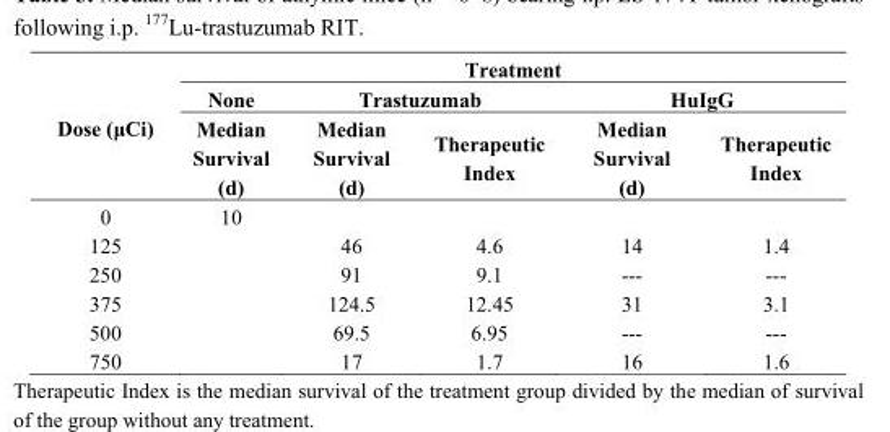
<table><thead><tr><td rowspan="3">Dose (μCi)</td><td colspan="5">Treatment</td></tr><tr><td rowspan="2">None Median Survival (d)</td><td colspan="2">Trastuzumab</td><td colspan="2">HuIgG</td></tr><tr><td>Median Survival (d)</td><td>Therapeutic Index</td><td>Median Survival (d)</td><td>Therapeutic Index</td></tr></thead><tbody><tr><td>0</td><td>10</td><td></td><td></td><td></td><td></td></tr><tr><td>125</td><td></td><td>46</td><td>4.6</td><td>14</td><td>1.4</td></tr><tr><td>250</td><td></td><td>91</td><td>9.1</td><td>---</td><td>---</td></tr><tr><td>375</td><td></td><td>124.5</td><td>12.45</td><td>31</td><td>3.1</td></tr><tr><td>500</td><td></td><td>69.5</td><td>6.95</td><td>---</td><td>---</td></tr><tr><td>750</td><td></td><td>17</td><td>1.7</td><td>16</td><td>1.6</td></tr></tbody></table>